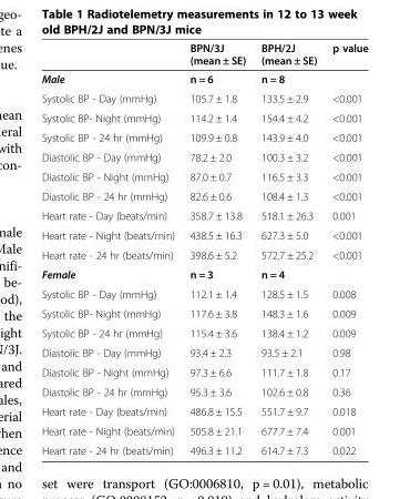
<table><thead><tr><td></td><td>BPN/3J (mean ± SE)</td><td>BPH/2J (mean ± SE)</td><td>p value</td></tr></thead><tbody><tr><td>Male</td><td>n = 6</td><td>n = 8</td><td></td></tr><tr><td>Systolic BP - Day (mmHg)</td><td>105.7 ± 1.8</td><td>133.5 ± 2.9</td><td>&lt;0.001</td></tr><tr><td>Systolic BP- Night (mmHg)</td><td>114.2 ± 1.4</td><td>154.4 ± 4.2</td><td>&lt;0.001</td></tr><tr><td>Systolic BP - 24 hr (mmHg)</td><td>109.9 ± 0.8</td><td>143.9 ± 4.0</td><td>&lt;0.001</td></tr><tr><td>Diastolic BP - Day (mmHg)</td><td>78.2 ± 2.0</td><td>100.3 ± 3.2</td><td>&lt;0.001</td></tr><tr><td>Diastolic BP - Night (mmHg)</td><td>87.0 ± 0.7</td><td>116.5 ± 3.3</td><td>&lt;0.001</td></tr><tr><td>Diastolic BP - 24 hr (mmHg)</td><td>82.6 ± 0.6</td><td>108.4 ± 1.3</td><td>&lt;0.001</td></tr><tr><td>Heart rate - Day (beats/min)</td><td>358.7 ± 13.8</td><td>518.1 ± 26.3</td><td>0.001</td></tr><tr><td>Heart rate - Night (beats/min)</td><td>438.5 ± 16.3</td><td>627.3 ± 5.0</td><td>&lt;0.001</td></tr><tr><td>Heart rate - 24 hr (beats/min)</td><td>398.6 ± 5.2</td><td>572.7 ± 25.2</td><td>&lt;0.001</td></tr><tr><td>Female</td><td>n = 3</td><td>n = 4</td><td></td></tr><tr><td>Systolic BP - Day (mmHg)</td><td>112.1 ± 1.4</td><td>128.5 ± 1.5</td><td>0.008</td></tr><tr><td>Systolic BP- Night (mmHg)</td><td>117.6 ± 3.8</td><td>148.3 ± 1.6</td><td>0.009</td></tr><tr><td>Systolic BP - 24 hr (mmHg)</td><td>115.4 ± 3.6</td><td>138.4 ± 1.2</td><td>0.009</td></tr><tr><td>Diastolic BP - Day (mmHg)</td><td>93.4 ± 2.3</td><td>93.5 ± 2.1</td><td>0.98</td></tr><tr><td>Diastolic BP - Night (mmHg)</td><td>97.3 ± 6.6</td><td>111.7 ± 1.8</td><td>0.17</td></tr><tr><td>Diastolic BP - 24 hr (mmHg)</td><td>95.3 ± 3.6</td><td>102.6 ± 0.8</td><td>0.36</td></tr><tr><td>Heart rate - Day (beats/min)</td><td>486.8 ± 15.5</td><td>551.7 ± 9.7</td><td>0.018</td></tr><tr><td>Heart rate - Night (beats/min)</td><td>505.8 ± 21.1</td><td>677.7 ± 7.4</td><td>0.001</td></tr><tr><td>Heart rate - 24 hr (beats/min)</td><td>496.3 ± 11.2</td><td>614.7 ± 7.3</td><td>0.022</td></tr></tbody></table>